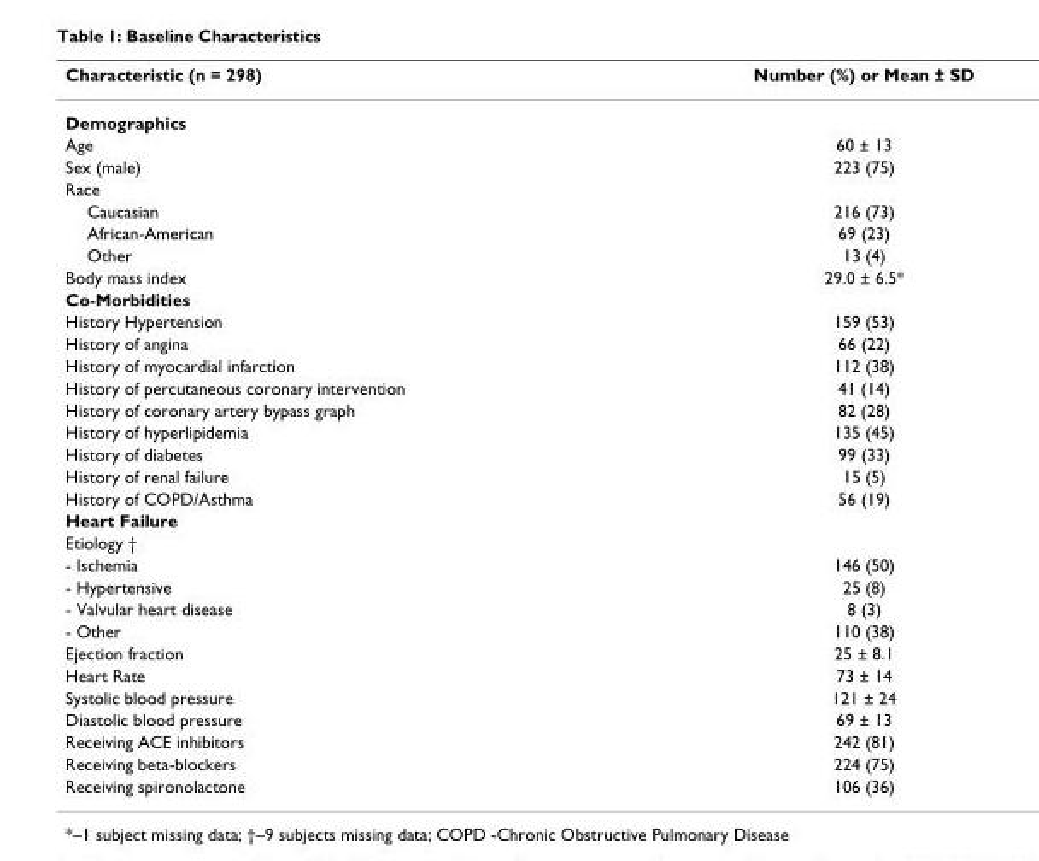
<table><thead><tr><td>Characteristic (n = 298)</td><td>Number (%) or Mean ± SD</td></tr></thead><tbody><tr><td colspan="2">Demographics</td></tr><tr><td>Age</td><td>60 ± 13</td></tr><tr><td>Sex (male)</td><td>223 (75)</td></tr><tr><td colspan="2">Race</td></tr><tr><td>Caucasian</td><td>216 (73)</td></tr><tr><td>African-American</td><td>69 (23)</td></tr><tr><td>Other</td><td>13 (4)</td></tr><tr><td>Body mass index</td><td>29.0 ± 6.5*</td></tr><tr><td colspan="2">Co-Morbidities</td></tr><tr><td>History Hypertension</td><td>159 (53)</td></tr><tr><td>History of angina</td><td>66 (22)</td></tr><tr><td>History of myocardial infarction</td><td>112 (38)</td></tr><tr><td>History of percutaneous coronary intervention</td><td>41 (14)</td></tr><tr><td>History of coronary artery bypass graph</td><td>82 (28)</td></tr><tr><td>History of hyperlipidemia</td><td>135 (45)</td></tr><tr><td>History of diabetes</td><td>99 (33)</td></tr><tr><td>History of renal failure</td><td>15 (5)</td></tr><tr><td>History of COPD/Asthma</td><td>56 (19)</td></tr><tr><td colspan="2">Heart Failure</td></tr><tr><td colspan="2">Etiology †</td></tr><tr><td>- Ischemia</td><td>146 (50)</td></tr><tr><td>- Hypertensive</td><td>25 (8)</td></tr><tr><td>- Valvular heart disease</td><td>8 (3)</td></tr><tr><td>- Other</td><td>110 (38)</td></tr><tr><td>Ejection fraction</td><td>25 ± 8.1</td></tr><tr><td>Heart Rate</td><td>73 ± 14</td></tr><tr><td>Systolic blood pressure</td><td>121 ± 24</td></tr><tr><td>Diastolic blood pressure</td><td>69 ± 13</td></tr><tr><td>Receiving ACE inhibitors</td><td>242 (81)</td></tr><tr><td>Receiving beta-blockers</td><td>224 (75)</td></tr><tr><td>Receiving spironolactone</td><td>106 (36)</td></tr></tbody></table>